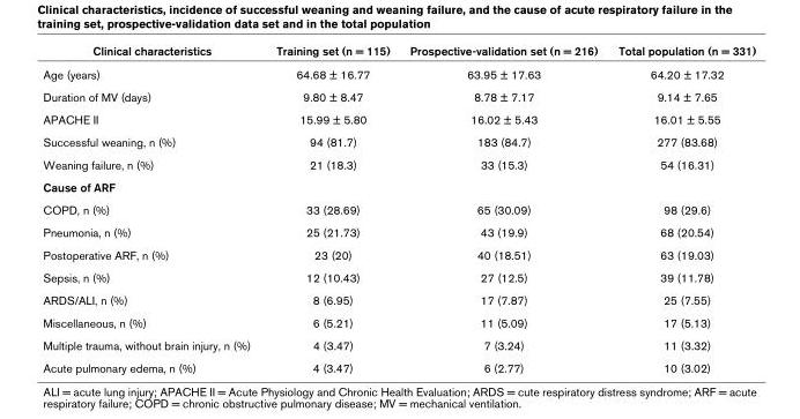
<table><thead><tr><td>Clinical characteristics</td><td>Training set (n = 115)</td><td>Prospective-validation set (n = 216)</td><td>Total population (n = 331)</td></tr></thead><tbody><tr><td>Age (years)</td><td>64.68 ± 16.77</td><td>63.95 ± 17.63</td><td>64.20 ± 17.32</td></tr><tr><td>Duration of MV (days)</td><td>9.80 ± 8.47</td><td>8.78 ± 7.17</td><td>9.14 ± 7.65</td></tr><tr><td>APACHE II</td><td>15.99 ± 5.80</td><td>16.02 ± 5.43</td><td>16.01 ± 5.55</td></tr><tr><td>Successful weaning, n (%)</td><td>94 (81.7)</td><td>183 (84.7)</td><td>277 (83.68)</td></tr><tr><td>Weaning failure, n (%)</td><td>21 (18.3)</td><td>33 (15.3)</td><td>54 (16.31)</td></tr><tr><td colspan="4">Cause of ARF</td></tr><tr><td>COPD, n (%)</td><td>33 (28.69)</td><td>65 (30.09)</td><td>98 (29.6)</td></tr><tr><td>Pneumonia, n (%)</td><td>25 (21.73)</td><td>43 (19.9)</td><td>68 (20.54)</td></tr><tr><td>Postoperative ARF, n (%)</td><td>23 (20)</td><td>40 (18.51)</td><td>63 (19.03)</td></tr><tr><td>Sepsis, n (%)</td><td>12 (10.43)</td><td>27 (12.5)</td><td>39 (11.78)</td></tr><tr><td>ARDS/ALI, n (%)</td><td>8 (6.95)</td><td>17 (7.87)</td><td>25 (7.55)</td></tr><tr><td>Miscellaneous, n (%)</td><td>6 (5.21)</td><td>11 (5.09)</td><td>17 (5.13)</td></tr><tr><td>Multiple trauma, without brain injury, n (%)</td><td>4 (3.47)</td><td>7 (3.24)</td><td>11 (3.32)</td></tr><tr><td>Acute pulmonary edema, n (%)</td><td>4 (3.47)</td><td>6 (2.77)</td><td>10 (3.02)</td></tr></tbody></table>